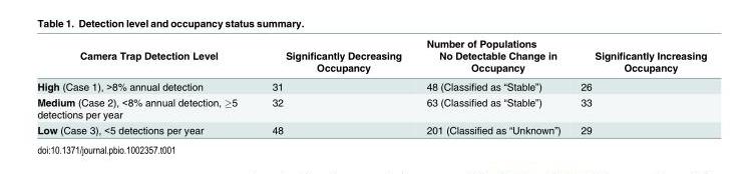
<table><thead><tr><td rowspan="2">Camera Trap Detection Level</td><td rowspan="2">Significantly Decreasing Occupancy</td><td rowspan="2">Number of Populations No Detectable Change in Occupancy</td><td rowspan="2">Significantly Increasing Occupancy</td></tr><tr></tr></thead><tbody><tr><td>High (Case 1), &gt;8% annual detection</td><td>31</td><td>48 (Classified as “Stable”)</td><td>26</td></tr><tr><td>Medium (Case 2), &lt;8% annual detection, ≥5 detections per year</td><td>32</td><td>63 (Classified as “Stable”)</td><td>33</td></tr><tr><td>Low (Case 3), &lt;5 detections per year</td><td>48</td><td>201 (Classified as “Unknown”)</td><td>29</td></tr></tbody></table>